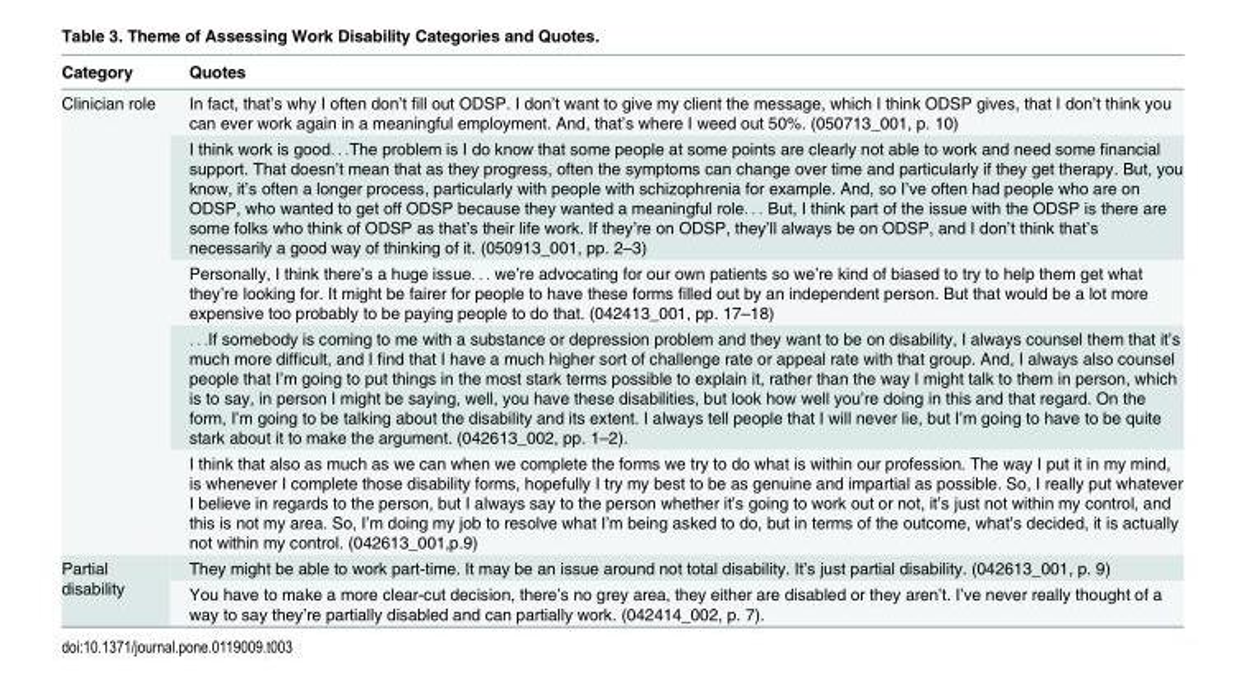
<table><thead><tr><td>Category</td><td>Quotes</td></tr></thead><tbody><tr><td rowspan="5">Clinician role</td><td>In fact, that’s why I often don’t fill out ODSP. I don’t want to give my client the message, which I think ODSP gives, that I don’t think you can ever work again in a meaningful employment. And, that’s where I weed out 50%. (050713_001, p. 10)</td></tr><tr><td>I think work is good. . .The problem is I do know that some people at some points are clearly not able to work and need some financial support. That doesn’t mean that as they progress, often the symptoms can change over time and particularly if they get therapy. But, you know, it’s often a longer process, particularly with people with schizophrenia for example. And, so I’ve often had people who are on ODSP, who wanted to get off ODSP because they wanted a meaningful role. . . But, I think part of the issue with the ODSP is there are some folks who think of ODSP as that’s their life work. If they’re on ODSP, they’ll always be on ODSP, and I don’t think that’s necessarily a good way of thinking of it. (050913_001, pp. 2–3)</td></tr><tr><td>Personally, I think there’s a huge issue. . . we’re advocating for our own patients so we’re kind of biased to try to help them get what they’re looking for. It might be fairer for people to have these forms filled out by an independent person. But that would be a lot more expensive too probably to be paying people to do that. (042413_001, pp. 17–18)</td></tr><tr><td>. . .If somebody is coming to me with a substance or depression problem and they want to be on disability, I always counsel them that it’s much more difficult, and I find that I have a much higher sort of challenge rate or appeal rate with that group. And, I always also counsel people that I’m going to put things in the most stark terms possible to explain it, rather than the way I might talk to them in person, which is to say, in person I might be saying, well, you have these disabilities, but look how well you’re doing in this and that regard. On the form, I’m going to be talking about the disability and its extent. I always tell people that I will never lie, but I’m going to have to be quite stark about it to make the argument. (042613_002, pp. 1–2).</td></tr><tr><td>I think that also as much as we can when we complete the forms we try to do what is within our profession. The way I put it in my mind, is whenever I complete those disability forms, hopefully I try my best to be as genuine and impartial as possible. So, I really put whatever I believe in regards to the person, but I always say to the person whether it’s going to work out or not, it’s just not within my control, and this is not my area. So, I’m doing my job to resolve what I’m being asked to do, but in terms of the outcome, what’s decided, it is actually not within my control. (042613_001,p.9)</td></tr><tr><td rowspan="2">Partial disability</td><td>They might be able to work part-time. It may be an issue around not total disability. It’s just partial disability. (042613_001, p. 9)</td></tr><tr><td>You have to make a more clear-cut decision, there’s no grey area, they either are disabled or they aren’t. I’ve never really thought of a way to say they’re partially disabled and can partially work. (042414_002, p. 7).</td></tr></tbody></table>